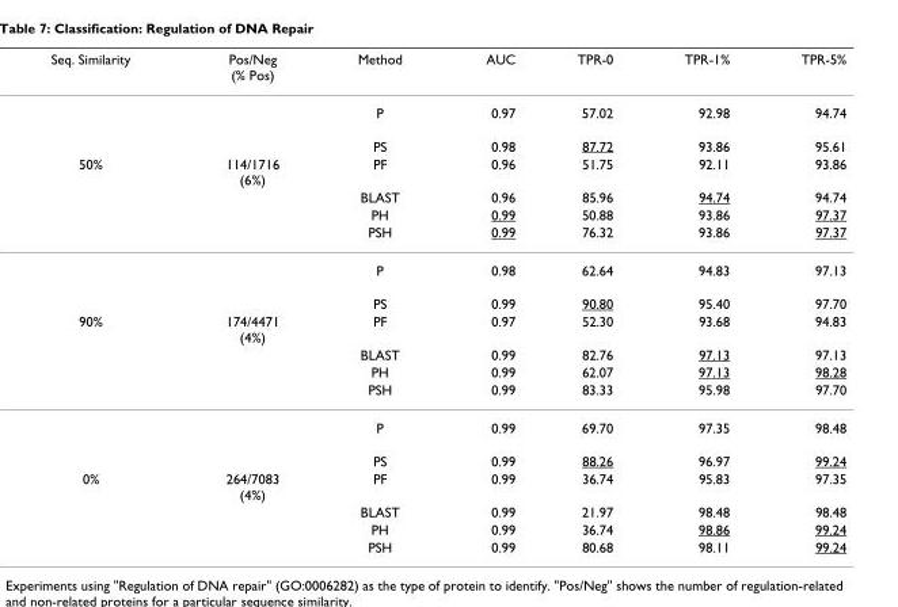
<table><thead><tr><td>Seq. Similarity</td><td>Pos/Neg (% Pos)</td><td>Method</td><td>AUC</td><td>TPR-0</td><td>TPR-1%</td><td>TPR-5%</td></tr></thead><tbody><tr><td></td><td></td><td>P</td><td>0.97</td><td>57.02</td><td>92.98</td><td>94.74</td></tr><tr><td></td><td></td><td>PS</td><td>0.98</td><td>87.72</td><td>93.86</td><td>95.61</td></tr><tr><td rowspan="6">50%</td><td>114/1716 (6%)</td><td>PF</td><td>0.96</td><td>51.75</td><td>92.11</td><td>93.86</td></tr><tr><td></td><td>BLAST</td><td>0.96</td><td>85.96</td><td>94.74</td><td>94.74</td></tr><tr><td></td><td>PH</td><td>0.99</td><td>50.88</td><td>93.86</td><td>97.37</td></tr><tr><td></td><td>PSH</td><td>0.99</td><td>76.32</td><td>93.86</td><td>97.37</td></tr><tr><td></td><td>P</td><td>0.98</td><td>62.64</td><td>94.83</td><td>97.13</td></tr><tr><td></td><td>PS</td><td>0.99</td><td>90.80</td><td>95.40</td><td>97.70</td></tr><tr><td rowspan="6">90%</td><td>174/4471 (4%)</td><td>PF</td><td>0.97</td><td>52.30</td><td>93.68</td><td>94.83</td></tr><tr><td></td><td>BLAST</td><td>0.99</td><td>82.76</td><td>97.13</td><td>97.13</td></tr><tr><td></td><td>PH</td><td>0.99</td><td>62.07</td><td>97.13</td><td>98.28</td></tr><tr><td></td><td>PSH</td><td>0.99</td><td>83.33</td><td>95.98</td><td>97.70</td></tr><tr><td></td><td>P</td><td>0.99</td><td>69.70</td><td>97.35</td><td>98.48</td></tr><tr><td></td><td>PS</td><td>0.99</td><td>88.26</td><td>96.97</td><td>99.24</td></tr><tr><td rowspan="4">0%</td><td>264/7083 (4%)</td><td>PF</td><td>0.99</td><td>36.74</td><td>95.83</td><td>97.35</td></tr><tr><td></td><td>BLAST</td><td>0.99</td><td>21.97</td><td>98.48</td><td>98.48</td></tr><tr><td></td><td>PH</td><td>0.99</td><td>36.74</td><td>98.86</td><td>99.24</td></tr><tr><td></td><td>PSH</td><td>0.99</td><td>80.68</td><td>98.11</td><td>99.24</td></tr></tbody></table>